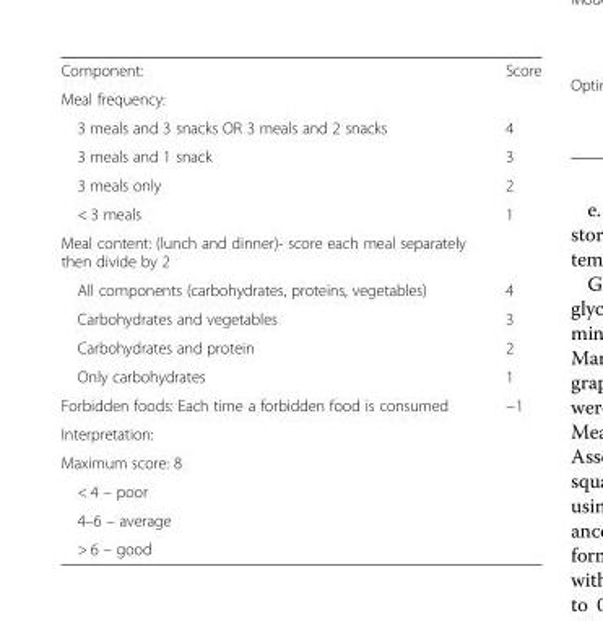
<table><tbody><tr><td>Component:</td><td>Score</td></tr><tr><td colspan="2">Meal frequency:</td></tr><tr><td>3 meals and 3 snacks OR 3 meals and 2 snacks</td><td>4</td></tr><tr><td>3 meals and 1 snack</td><td>3</td></tr><tr><td>3 meals only</td><td>2</td></tr><tr><td>&lt; 3 meals</td><td>1</td></tr><tr><td colspan="2">Meal content: (lunch and dinner)- score each meal separately then divide by 2</td></tr><tr><td>All components (carbohydrates, proteins, vegetables)</td><td>4</td></tr><tr><td>Carbohydrates and vegetables</td><td>3</td></tr><tr><td>Carbohydrates and protein</td><td>2</td></tr><tr><td>Only carbohydrates</td><td>1</td></tr><tr><td>Forbidden foods: Each time a forbidden food is consumed</td><td>−1</td></tr><tr><td colspan="2">Interpretation:</td></tr><tr><td colspan="2">Maximum score: 8</td></tr><tr><td colspan="2">&lt; 4 – poor</td></tr><tr><td colspan="2">4–6 – average</td></tr><tr><td colspan="2">&gt; 6 – good</td></tr></tbody></table>